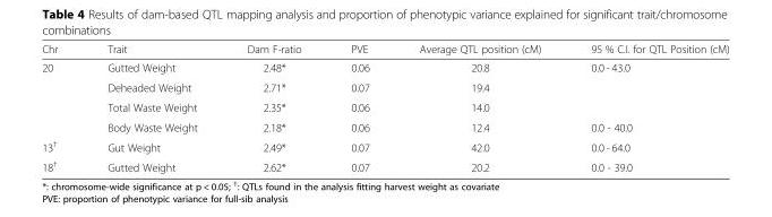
<table><thead><tr><td>Chr</td><td>Trait</td><td>Dam F-ratio</td><td>PVE</td><td>Average QTL position (cM)</td><td>95 % C.I. for QTL Position (cM)</td></tr></thead><tbody><tr><td rowspan="4">20</td><td>Gutted Weight</td><td>2.48*</td><td>0.06</td><td>20.8</td><td rowspan="3">0.0 - 43.0</td></tr><tr><td>Deheaded Weight</td><td>2.71*</td><td>0.07</td><td>19.4</td></tr><tr><td>Total Waste Weight</td><td>2.35*</td><td>0.06</td><td>14.0</td></tr><tr><td>Body Waste Weight</td><td>2.18*</td><td>0.06</td><td>12.4</td><td>0.0 - 40.0</td></tr><tr><td>13<sup>†</sup></td><td>Gut Weight</td><td>2.49*</td><td>0.07</td><td>42.0</td><td>0.0 - 64.0</td></tr><tr><td>18<sup>†</sup></td><td>Gutted Weight</td><td>2.62*</td><td>0.07</td><td>20.2</td><td>0.0 - 39.0</td></tr></tbody></table>